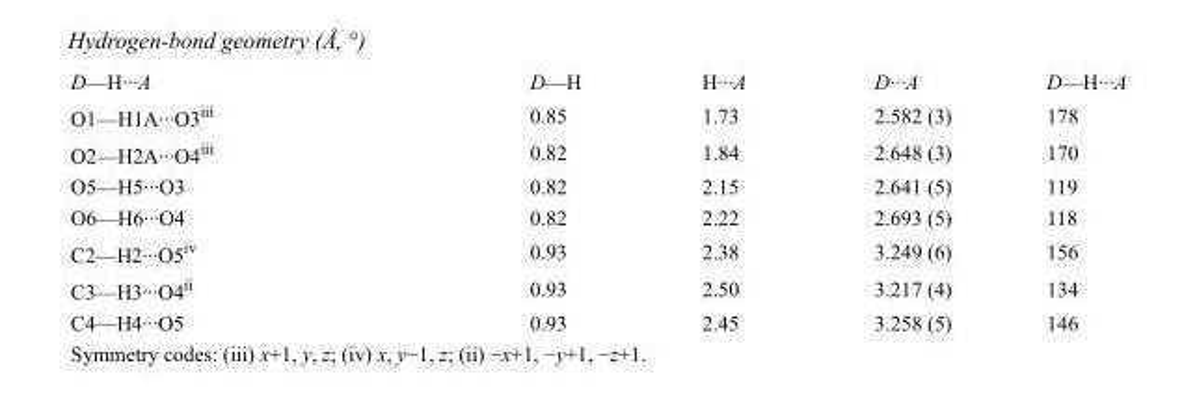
<table><tbody><tr><td>D—H···A</td><td>D—H</td><td>H···A</td><td>D···A</td><td>D—H···A</td></tr><tr><td>O1—H1A···O3<sup>iii</sup></td><td>0.85</td><td>1.73</td><td>2.582 (3)</td><td>178</td></tr><tr><td>O2—H2A···O4<sup>iii</sup></td><td>0.82</td><td>1.84</td><td>2.648 (3)</td><td>170</td></tr><tr><td>O5—H5···O3</td><td>0.82</td><td>2.15</td><td>2.641 (5)</td><td>119</td></tr><tr><td>O6—H6···O4</td><td>0.82</td><td>2.22</td><td>2.693 (5)</td><td>118</td></tr><tr><td>C2—H2···O5<sup>iv</sup></td><td>0.93</td><td>2.38</td><td>3.249 (6)</td><td>156</td></tr><tr><td>C3—H3···O4<sup>ii</sup></td><td>0.93</td><td>2.50</td><td>3.217 (4)</td><td>134</td></tr><tr><td>C4—H4···O5</td><td>0.93</td><td>2.45</td><td>3.258 (5)</td><td>146</td></tr></tbody></table>